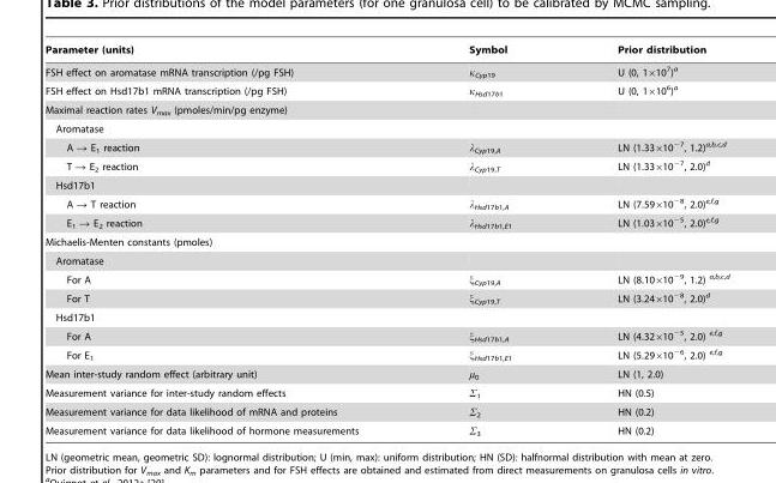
<table><thead><tr><td>Parameter (units)</td><td>Symbol</td><td>Prior distribution</td></tr></thead><tbody><tr><td>FSH effect on aromatase mRNA transcription (/pg FSH)</td><td>κ<sub>Cyp19</sub></td><td>U (0, 1×10<sup>7</sup>)<sup>a</sup></td></tr><tr><td>FSH effect on Hsd17b1 mRNA transcription (/pg FSH)</td><td>κ<sub>Hsd17b1</sub></td><td>U (0, 1×10<sup>6</sup>)<sup>a</sup></td></tr><tr><td colspan="3">Maximal reaction rates V<sub>max</sub> (pmoles/min/pg enzyme)</td></tr><tr><td colspan="3">Aromatase</td></tr><tr><td>A → E<sub>1</sub> reaction</td><td>λ<sub>Cyp19,A</sub></td><td>LN (1.33×10<sup>−7</sup>, 1.2)a,b,c,d</td></tr><tr><td>T → E<sub>2</sub> reaction</td><td>λ<sub>Cyp19,T</sub></td><td>LN (1.33×10<sup>−7</sup>, 2.0)<sup>d</sup></td></tr><tr><td colspan="3">Hsd17b1</td></tr><tr><td>A → T reaction</td><td>λ<sub>Hsd17b1,A</sub></td><td>LN (7.59×10<sup>−8</sup>, 2.0)e,f,g</td></tr><tr><td>E<sub>1</sub> → E<sub>2</sub> reaction</td><td>λ<sub>Hsd17b1,E1</sub></td><td>LN (1.03×10<sup>−5</sup>, 2.0)e,f,g</td></tr><tr><td colspan="3">Michaelis-Menten constants (pmoles)</td></tr><tr><td colspan="3">Aromatase</td></tr><tr><td>For A</td><td>ξ<sub>Cyp19,A</sub></td><td>LN (8.10×10<sup>−9</sup>, 1.2) a,b,c,d</td></tr><tr><td>For T</td><td>ξ<sub>Cyp19,T</sub></td><td>LN (3.24×10<sup>−8</sup>, 2.0)<sup>d</sup></td></tr><tr><td colspan="3">Hsd17b1</td></tr><tr><td>For A</td><td>ξ<sub>Hsd17b1,A</sub></td><td>LN (4.32×10<sup>−5</sup>, 2.0) e,f,g</td></tr><tr><td>For E<sub>1</sub></td><td>ξ<sub>Hsd17b1,E1</sub></td><td>LN (5.29×10<sup>−6</sup>, 2.0) e,f,g</td></tr><tr><td>Mean inter-study random effect (arbitrary unit)</td><td>µ<sub>0</sub></td><td>LN (1, 2.0)</td></tr><tr><td>Measurement variance for inter-study random effects</td><td>Σ<sub>1</sub></td><td>HN (0.5)</td></tr><tr><td>Measurement variance for data likelihood of mRNA and proteins</td><td>Σ<sub>2</sub></td><td>HN (0.2)</td></tr><tr><td>Measurement variance for data likelihood of hormone measurements</td><td>Σ<sub>3</sub></td><td>HN (0.2)</td></tr></tbody></table>